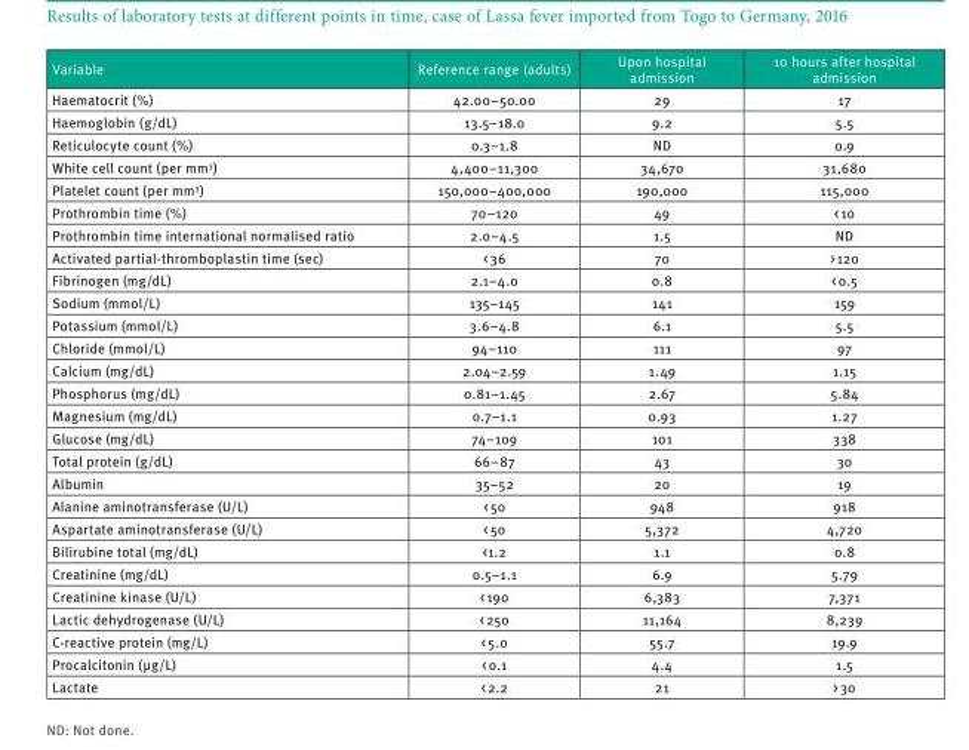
<table><thead><tr><td>Variable</td><td>Reference range (adults)</td><td>Upon hospital admission</td><td>10 hours after hospital admission</td></tr></thead><tbody><tr><td>Haematocrit (%)</td><td>42.00–50.00</td><td>29</td><td>17</td></tr><tr><td>Haemoglobin (g/dL)</td><td>13.5–18.0</td><td>9.2</td><td>5.5</td></tr><tr><td>Reticulocyte count (%)</td><td>0.3–1.8</td><td>ND</td><td>0.9</td></tr><tr><td>White cell count (per mm<sup>3</sup>)</td><td>4,400–11,300</td><td>34,670</td><td>31,680</td></tr><tr><td>Platelet count (per mm<sup>3</sup>)</td><td>150,000–400,000</td><td>190,000</td><td>115,000</td></tr><tr><td>Prothrombin time (%)</td><td>70–120</td><td>49</td><td>&lt; 10</td></tr><tr><td>Prothrombin time international normalised ratio</td><td>2.0–4.5</td><td>1.5</td><td>ND</td></tr><tr><td>Activated partial-thromboplastin time (sec)</td><td>&lt; 36</td><td>70</td><td>&gt; 120</td></tr><tr><td>Fibrinogen (mg/dL)</td><td>2.1–4.0</td><td>0.8</td><td>&lt; 0.5</td></tr><tr><td>Sodium (mmol/L)</td><td>135–145</td><td>141</td><td>159</td></tr><tr><td>Potassium (mmol/L)</td><td>3.6–4.8</td><td>6.1</td><td>5.5</td></tr><tr><td>Chloride (mmol/L)</td><td>94–110</td><td>111</td><td>97</td></tr><tr><td>Calcium (mg/dL)</td><td>2.04–2.59</td><td>1.49</td><td>1.15</td></tr><tr><td>Phosphorus (mg/dL)</td><td>0.81–1.45</td><td>2.67</td><td>5.84</td></tr><tr><td>Magnesium (mg/dL)</td><td>0.7–1.1</td><td>0.93</td><td>1.27</td></tr><tr><td>Glucose (mg/dL)</td><td>74–109</td><td>101</td><td>338</td></tr><tr><td>Total protein (g/dL)</td><td>66–87</td><td>43</td><td>30</td></tr><tr><td>Albumin</td><td>35–52</td><td>20</td><td>19</td></tr><tr><td>Alanine aminotransferase (U/L)</td><td>&lt; 50</td><td>948</td><td>918</td></tr><tr><td>Aspartate aminotransferase (U/L)</td><td>&lt; 50</td><td>5,372</td><td>4,720</td></tr><tr><td>Bilirubine total (mg/dL)</td><td>&lt;1.2</td><td>1.1</td><td>0.8</td></tr><tr><td>Creatinine (mg/dL)</td><td>0.5−1.1</td><td>6.9</td><td>5.79</td></tr><tr><td>Creatinine kinase (U/L)</td><td>&lt; 190</td><td>6,383</td><td>7,371</td></tr><tr><td>Lactic dehydrogenase (U/L)</td><td>&lt; 250</td><td>11,164</td><td>8,239</td></tr><tr><td>C-reactive protein (mg/L)</td><td>&lt; 5.0</td><td>55.7</td><td>19.9</td></tr><tr><td>Procalcitonin (µg/L)</td><td>&lt; 0.1</td><td>4.4</td><td>1.5</td></tr><tr><td>Lactate</td><td>&lt; 2.2</td><td>21</td><td>&gt; 30</td></tr></tbody></table>